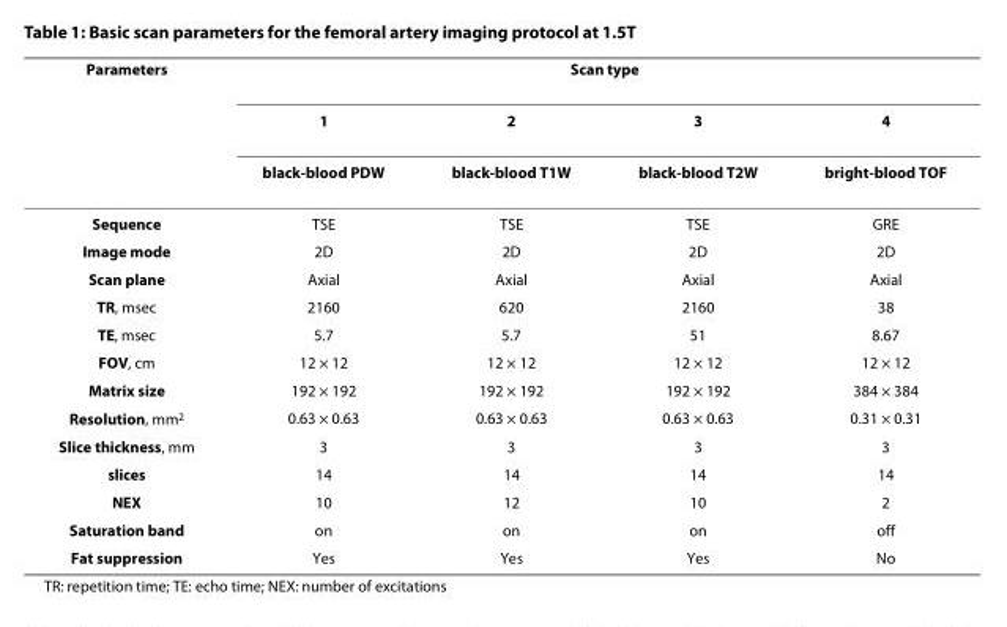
<table><thead><tr><td rowspan="3">Parameters</td><td colspan="4">Scan type</td></tr><tr><td rowspan="2">1 black-blood PDW</td><td rowspan="2">2 black-blood T1W</td><td rowspan="2">3 black-blood T2W</td><td rowspan="2">4 bright-blood TOF</td></tr><tr></tr></thead><tbody><tr><td>Sequence</td><td>TSE</td><td>TSE</td><td>TSE</td><td>GRE</td></tr><tr><td>Image mode</td><td>2D</td><td>2D</td><td>2D</td><td>2D</td></tr><tr><td>Scan plane</td><td>Axial</td><td>Axial</td><td>Axial</td><td>Axial</td></tr><tr><td>TR, msec</td><td>2160</td><td>620</td><td>2160</td><td>38</td></tr><tr><td>TE, msec</td><td>5.7</td><td>5.7</td><td>51</td><td>8.67</td></tr><tr><td>FOV, cm</td><td>12 × 12</td><td>12 × 12</td><td>12 × 12</td><td>12 × 12</td></tr><tr><td>Matrix size</td><td>192 × 192</td><td>192 × 192</td><td>192 × 192</td><td>384 × 384</td></tr><tr><td>Resolution, mm<sup>2</sup></td><td>0.63 × 0.63</td><td>0.63 × 0.63</td><td>0.63 × 0.63</td><td>0.31 × 0.31</td></tr><tr><td>Slice thickness, mm</td><td>3</td><td>3</td><td>3</td><td>3</td></tr><tr><td>slices</td><td>14</td><td>14</td><td>14</td><td>14</td></tr><tr><td>NEX</td><td>10</td><td>12</td><td>10</td><td>2</td></tr><tr><td>Saturation band</td><td>on</td><td>on</td><td>on</td><td>off</td></tr><tr><td>Fat suppression</td><td>Yes</td><td>Yes</td><td>Yes</td><td>No</td></tr></tbody></table>